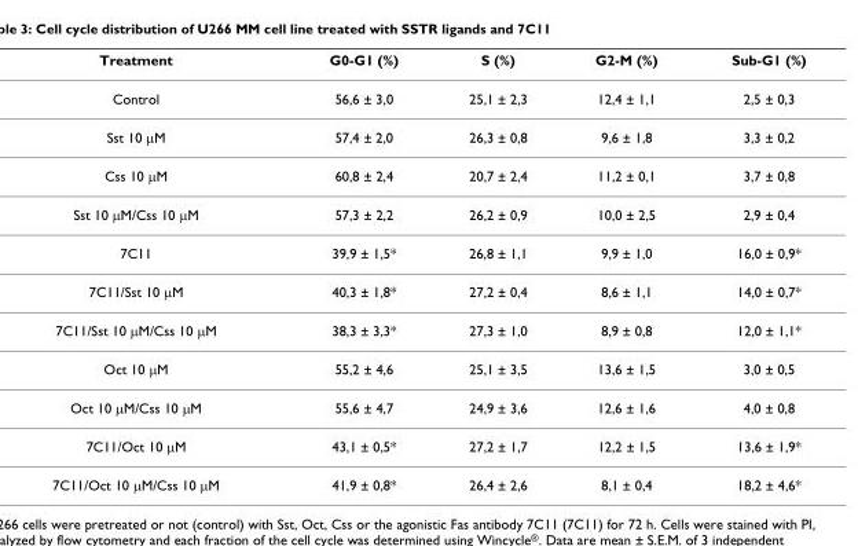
<table><thead><tr><td>Treatment</td><td>G0-G1 (%)</td><td>S (%)</td><td>G2-M (%)</td><td>Sub-G1 (%)</td></tr></thead><tbody><tr><td>Control</td><td>56,6 ± 3,0</td><td>25,1 ± 2,3</td><td>12,4 ± 1,1</td><td>2,5 ± 0,3</td></tr><tr><td>Sst 10 μM</td><td>57,4 ± 2,0</td><td>26,3 ± 0,8</td><td>9,6 ± 1,8</td><td>3,3 ± 0,2</td></tr><tr><td>Css 10 μM</td><td>60,8 ± 2,4</td><td>20,7 ± 2,4</td><td>11,2 ± 0,1</td><td>3,7 ± 0,8</td></tr><tr><td>Sst 10 μM/Css 10 μM</td><td>57,3 ± 2,2</td><td>26,2 ± 0,9</td><td>10,0 ± 2,5</td><td>2,9 ± 0,4</td></tr><tr><td>7C11</td><td>39,9 ± 1,5*</td><td>26,8 ± 1,1</td><td>9,9 ± 1,0</td><td>16,0 ± 0,9*</td></tr><tr><td>7C11/Sst 10 μM</td><td>40,3 ± 1,8*</td><td>27,2 ± 0,4</td><td>8,6 ± 1,1</td><td>14,0 ± 0,7*</td></tr><tr><td>7C11/Sst 10 μM/Css 10 μM</td><td>38,3 ± 3,3*</td><td>27,3 ± 1,0</td><td>8,9 ± 0,8</td><td>12,0 ± 1,1*</td></tr><tr><td>Oct 10 μM</td><td>55,2 ± 4,6</td><td>25,1 ± 3,5</td><td>13,6 ± 1,5</td><td>3,0 ± 0,5</td></tr><tr><td>Oct 10 μM/Css 10 μM</td><td>55,6 ± 4,7</td><td>24,9 ± 3,6</td><td>12,6 ± 1,6</td><td>4,0 ± 0,8</td></tr><tr><td>7C11/Oct 10 μM</td><td>43,1 ± 0,5*</td><td>27,2 ± 1,7</td><td>12,2 ± 1,5</td><td>13,6 ± 1,9*</td></tr><tr><td>7C11/Oct 10 μM/Css 10 μM</td><td>41,9 ± 0,8*</td><td>26,4 ± 2,6</td><td>8,1 ± 0,4</td><td>18,2 ± 4,6*</td></tr></tbody></table>